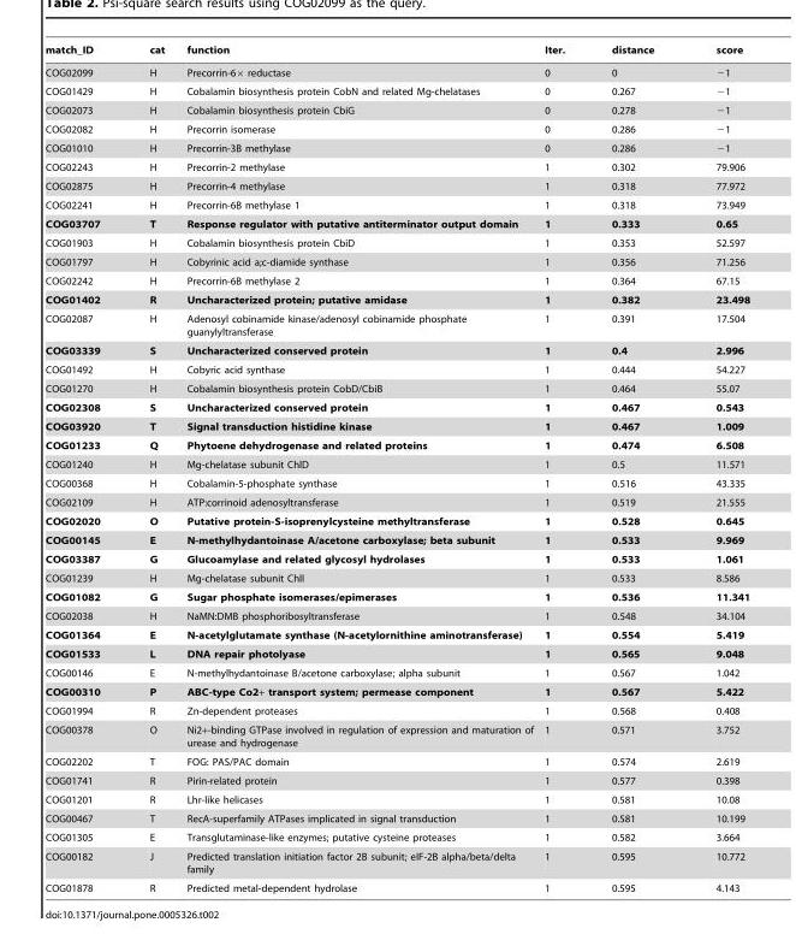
<table><thead><tr><td>match_ID</td><td>cat</td><td>function</td><td>Iter.</td><td>distance</td><td>score</td></tr></thead><tbody><tr><td>COG02099</td><td>H</td><td>Precorrin-6× reductase</td><td>0</td><td>0</td><td>−1</td></tr><tr><td>COG01429</td><td>H</td><td>Cobalamin biosynthesis protein CobN and related Mg-chelatases</td><td>0</td><td>0.267</td><td>−1</td></tr><tr><td>COG02073</td><td>H</td><td>Cobalamin biosynthesis protein CbiG</td><td>0</td><td>0.278</td><td>−1</td></tr><tr><td>COG02082</td><td>H</td><td>Precorrin isomerase</td><td>0</td><td>0.286</td><td>−1</td></tr><tr><td>COG01010</td><td>H</td><td>Precorrin-3B methylase</td><td>0</td><td>0.286</td><td>−1</td></tr><tr><td>COG02243</td><td>H</td><td>Precorrin-2 methylase</td><td>1</td><td>0.302</td><td>79.906</td></tr><tr><td>COG02875</td><td>H</td><td>Precorrin-4 methylase</td><td>1</td><td>0.318</td><td>77.972</td></tr><tr><td>COG02241</td><td>H</td><td>Precorrin-6B methylase 1</td><td>1</td><td>0.318</td><td>73.949</td></tr><tr><td>COG03707</td><td>T</td><td>Response regulator with putative antiterminator output domain</td><td>1</td><td>0.333</td><td>0.65</td></tr><tr><td>COG01903</td><td>H</td><td>Cobalamin biosynthesis protein CbiD</td><td>1</td><td>0.353</td><td>52.597</td></tr><tr><td>COG01797</td><td>H</td><td>Cobyrinic acid a;c-diamide synthase</td><td>1</td><td>0.356</td><td>71.256</td></tr><tr><td>COG02242</td><td>H</td><td>Precorrin-6B methylase 2</td><td>1</td><td>0.364</td><td>67.15</td></tr><tr><td>COG01402</td><td>R</td><td>Uncharacterized protein; putative amidase</td><td>1</td><td>0.382</td><td>23.498</td></tr><tr><td>COG02087</td><td>H</td><td>Adenosyl cobinamide kinase/adenosyl cobinamide phosphate guanylyltransferase</td><td>1</td><td>0.391</td><td>17.504</td></tr><tr><td>COG03339</td><td>S</td><td>Uncharacterized conserved protein</td><td>1</td><td>0.4</td><td>2.996</td></tr><tr><td>COG01492</td><td>H</td><td>Cobyric acid synthase</td><td>1</td><td>0.444</td><td>54.227</td></tr><tr><td>COG01270</td><td>H</td><td>Cobalamin biosynthesis protein CobD/CbiB</td><td>1</td><td>0.464</td><td>55.07</td></tr><tr><td>COG02308</td><td>S</td><td>Uncharacterized conserved protein</td><td>1</td><td>0.467</td><td>0.543</td></tr><tr><td>COG03920</td><td>T</td><td>Signal transduction histidine kinase</td><td>1</td><td>0.467</td><td>1.009</td></tr><tr><td>COG01233</td><td>Q</td><td>Phytoene dehydrogenase and related proteins</td><td>1</td><td>0.474</td><td>6.508</td></tr><tr><td>COG01240</td><td>H</td><td>Mg-chelatase subunit ChlD</td><td>1</td><td>0.5</td><td>11.571</td></tr><tr><td>COG00368</td><td>H</td><td>Cobalamin-5-phosphate synthase</td><td>1</td><td>0.516</td><td>43.335</td></tr><tr><td>COG02109</td><td>H</td><td>ATP:corrinoid adenosyltransferase</td><td>1</td><td>0.519</td><td>21.555</td></tr><tr><td>COG02020</td><td>O</td><td>Putative protein-S-isoprenylcysteine methyltransferase</td><td>1</td><td>0.528</td><td>0.645</td></tr><tr><td>COG00145</td><td>E</td><td>N-methylhydantoinase A/acetone carboxylase; beta subunit</td><td>1</td><td>0.533</td><td>9.969</td></tr><tr><td>COG03387</td><td>G</td><td>Glucoamylase and related glycosyl hydrolases</td><td>1</td><td>0.533</td><td>1.061</td></tr><tr><td>COG01239</td><td>H</td><td>Mg-chelatase subunit ChlI</td><td>1</td><td>0.533</td><td>8.586</td></tr><tr><td>COG01082</td><td>G</td><td>Sugar phosphate isomerases/epimerases</td><td>1</td><td>0.536</td><td>11.341</td></tr><tr><td>COG02038</td><td>H</td><td>NaMN:DMB phosphoribosyltransferase</td><td>1</td><td>0.548</td><td>34.104</td></tr><tr><td>COG01364</td><td>E</td><td>N-acetylglutamate synthase (N-acetylornithine aminotransferase)</td><td>1</td><td>0.554</td><td>5.419</td></tr><tr><td>COG01533</td><td>L</td><td>DNA repair photolyase</td><td>1</td><td>0.565</td><td>9.048</td></tr><tr><td>COG00146</td><td>E</td><td>N-methylhydantoinase B/acetone carboxylase; alpha subunit</td><td>1</td><td>0.567</td><td>1.042</td></tr><tr><td>COG00310</td><td>P</td><td>ABC-type Co2+ transport system; permease component</td><td>1</td><td>0.567</td><td>5.422</td></tr><tr><td>COG01994</td><td>R</td><td>Zn-dependent proteases</td><td>1</td><td>0.568</td><td>0.408</td></tr><tr><td>COG00378</td><td>O</td><td>Ni2+-binding GTPase involved in regulation of expression and maturation of urease and hydrogenase</td><td>1</td><td>0.571</td><td>3.752</td></tr><tr><td>COG02202</td><td>T</td><td>FOG: PAS/PAC domain</td><td>1</td><td>0.574</td><td>2.619</td></tr><tr><td>COG01741</td><td>R</td><td>Pirin-related protein</td><td>1</td><td>0.577</td><td>0.398</td></tr><tr><td>COG01201</td><td>R</td><td>Lhr-like helicases</td><td>1</td><td>0.581</td><td>10.08</td></tr><tr><td>COG00467</td><td>T</td><td>RecA-superfamily ATPases implicated in signal transduction</td><td>1</td><td>0.581</td><td>10.199</td></tr><tr><td>COG01305</td><td>E</td><td>Transglutaminase-like enzymes; putative cysteine proteases</td><td>1</td><td>0.582</td><td>3.664</td></tr><tr><td>COG00182</td><td>J</td><td>Predicted translation initiation factor 2B subunit; eIF-2B alpha/beta/delta family</td><td>1</td><td>0.595</td><td>10.772</td></tr><tr><td>COG01878</td><td>R</td><td>Predicted metal-dependent hydrolase</td><td>1</td><td>0.595</td><td>4.143</td></tr></tbody></table>